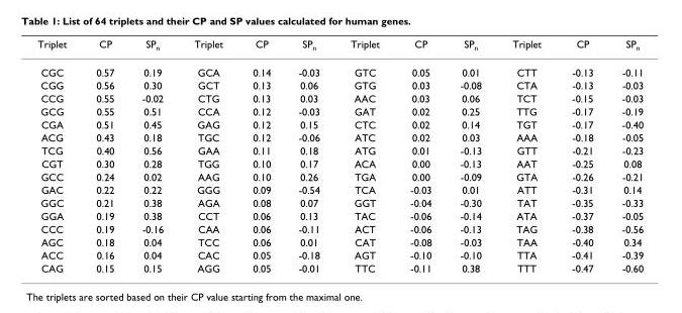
<table><thead><tr><td>Triplet</td><td>CP</td><td>SP<sub>n</sub></td><td>Triplet</td><td>CP</td><td>SP<sub>n</sub></td><td>Triplet</td><td>CP</td><td>SP<sub>n</sub></td><td>Triplet</td><td>CP</td><td>SP<sub>n</sub></td></tr></thead><tbody><tr><td>CGC</td><td>0.57</td><td>0.19</td><td>GCA</td><td>0.14</td><td>-0.03</td><td>GTC</td><td>0.05</td><td>0.01</td><td>CTT</td><td>-0.13</td><td>-0.11</td></tr><tr><td>CGG</td><td>0.56</td><td>0.30</td><td>GCT</td><td>0.13</td><td>0.06</td><td>GTG</td><td>0.03</td><td>-0.08</td><td>CTA</td><td>-0.13</td><td>-0.03</td></tr><tr><td>CCG</td><td>0.55</td><td>-0.02</td><td>CTG</td><td>0.13</td><td>0.03</td><td>AAC</td><td>0.03</td><td>0.06</td><td>TCT</td><td>-0.15</td><td>-0.03</td></tr><tr><td>GCG</td><td>0.55</td><td>0.51</td><td>CCA</td><td>0.12</td><td>-0.03</td><td>GAT</td><td>0.02</td><td>0.25</td><td>TTG</td><td>-0.17</td><td>-0.19</td></tr><tr><td>CGA</td><td>0.51</td><td>0.45</td><td>GAG</td><td>0.12</td><td>0.15</td><td>CTC</td><td>0.02</td><td>0.14</td><td>TGT</td><td>-0.17</td><td>-0.40</td></tr><tr><td>ACG</td><td>0.43</td><td>0.18</td><td>TGC</td><td>0.12</td><td>-0.06</td><td>ATC</td><td>0.02</td><td>0.03</td><td>AAA</td><td>-0.18</td><td>-0.05</td></tr><tr><td>TCG</td><td>0.40</td><td>0.56</td><td>GAA</td><td>0.11</td><td>0.18</td><td>ATG</td><td>0.01</td><td>-0.13</td><td>GTT</td><td>-0.21</td><td>-0.23</td></tr><tr><td>CGT</td><td>0.30</td><td>0.28</td><td>TGG</td><td>0.10</td><td>0.17</td><td>ACA</td><td>0.00</td><td>-0.13</td><td>AAT</td><td>-0.25</td><td>0.08</td></tr><tr><td>GCC</td><td>0.24</td><td>0.02</td><td>AAG</td><td>0.10</td><td>0.26</td><td>TGA</td><td>0.00</td><td>-0.09</td><td>GTA</td><td>-0.26</td><td>-0.21</td></tr><tr><td>GAC</td><td>0.22</td><td>0.22</td><td>GGG</td><td>0.09</td><td>-0.54</td><td>TCA</td><td>-0.03</td><td>0.01</td><td>ATT</td><td>-0.31</td><td>0.14</td></tr><tr><td>GGC</td><td>0.21</td><td>0.38</td><td>AGA</td><td>0.08</td><td>0.07</td><td>GGT</td><td>-0.04</td><td>-0.30</td><td>TAT</td><td>-0.35</td><td>-0.33</td></tr><tr><td>GGA</td><td>0.19</td><td>0.38</td><td>CCT</td><td>0.06</td><td>0.13</td><td>TAC</td><td>-0.06</td><td>-0.14</td><td>ATA</td><td>-0.37</td><td>-0.05</td></tr><tr><td>CCC</td><td>0.19</td><td>-0.16</td><td>CAA</td><td>0.06</td><td>-0.11</td><td>ACT</td><td>-0.06</td><td>-0.13</td><td>TAG</td><td>-0.38</td><td>-0.56</td></tr><tr><td>AGC</td><td>0.18</td><td>0.04</td><td>TCC</td><td>0.06</td><td>0.01</td><td>CAT</td><td>-0.08</td><td>-0.03</td><td>TAA</td><td>-0.40</td><td>0.34</td></tr><tr><td>ACC</td><td>0.16</td><td>0.04</td><td>CAC</td><td>0.05</td><td>-0.18</td><td>AGT</td><td>-0.10</td><td>-0.10</td><td>TTA</td><td>-0.41</td><td>-0.39</td></tr><tr><td>CAG</td><td>0.15</td><td>0.15</td><td>AGG</td><td>0.05</td><td>-0.01</td><td>TTC</td><td>-0.11</td><td>0.38</td><td>TTT</td><td>-0.47</td><td>-0.60</td></tr></tbody></table>